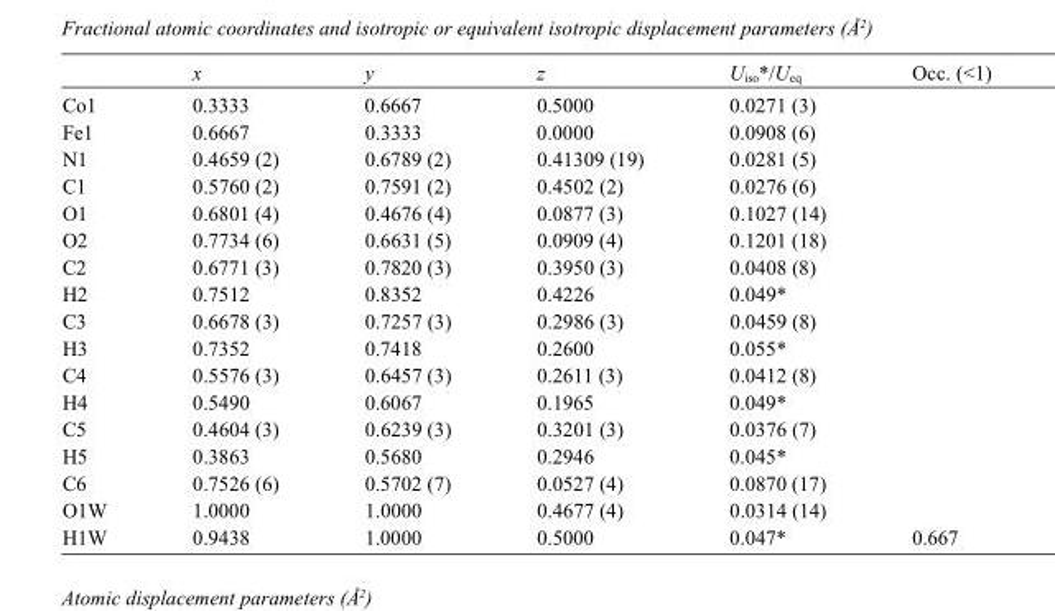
<table><thead><tr><td></td><td>x</td><td>y</td><td>z</td><td>U<sub>iso</sub>*/U<sub>eq</sub></td><td>Occ. (&lt;1)</td></tr></thead><tbody><tr><td>Co1</td><td>0.3333</td><td>0.6667</td><td>0.5000</td><td>0.0271 (3)</td><td></td></tr><tr><td>Fe1</td><td>0.6667</td><td>0.3333</td><td>0.0000</td><td>0.0908 (6)</td><td></td></tr><tr><td>N1</td><td>0.4659 (2)</td><td>0.6789 (2)</td><td>0.41309 (19)</td><td>0.0281 (5)</td><td></td></tr><tr><td>C1</td><td>0.5760 (2)</td><td>0.7591 (2)</td><td>0.4502 (2)</td><td>0.0276 (6)</td><td></td></tr><tr><td>O1</td><td>0.6801 (4)</td><td>0.4676 (4)</td><td>0.0877 (3)</td><td>0.1027 (14)</td><td></td></tr><tr><td>O2</td><td>0.7734 (6)</td><td>0.6631 (5)</td><td>0.0909 (4)</td><td>0.1201 (18)</td><td></td></tr><tr><td>C2</td><td>0.6771 (3)</td><td>0.7820 (3)</td><td>0.3950 (3)</td><td>0.0408 (8)</td><td></td></tr><tr><td>H2</td><td>0.7512</td><td>0.8352</td><td>0.4226</td><td>0.049*</td><td></td></tr><tr><td>C3</td><td>0.6678 (3)</td><td>0.7257 (3)</td><td>0.2986 (3)</td><td>0.0459 (8)</td><td></td></tr><tr><td>H3</td><td>0.7352</td><td>0.7418</td><td>0.2600</td><td>0.055*</td><td></td></tr><tr><td>C4</td><td>0.5576 (3)</td><td>0.6457 (3)</td><td>0.2611 (3)</td><td>0.0412 (8)</td><td></td></tr><tr><td>H4</td><td>0.5490</td><td>0.6067</td><td>0.1965</td><td>0.049*</td><td></td></tr><tr><td>C5</td><td>0.4604 (3)</td><td>0.6239 (3)</td><td>0.3201 (3)</td><td>0.0376 (7)</td><td></td></tr><tr><td>H5</td><td>0.3863</td><td>0.5680</td><td>0.2946</td><td>0.045*</td><td></td></tr><tr><td>C6</td><td>0.7526 (6)</td><td>0.5702 (7)</td><td>0.0527 (4)</td><td>0.0870 (17)</td><td></td></tr><tr><td>O1W</td><td>1.0000</td><td>1.0000</td><td>0.4677 (4)</td><td>0.0314 (14)</td><td></td></tr><tr><td>H1W</td><td>0.9438</td><td>1.0000</td><td>0.5000</td><td>0.047*</td><td>0.667</td></tr></tbody></table>